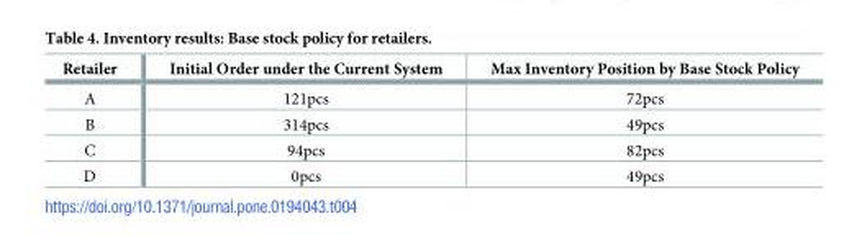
<table><thead><tr><td>Retailer</td><td>Initial Order under the Current System</td><td>Max Inventory Position by Base Stock Policy</td></tr></thead><tbody><tr><td>A</td><td>121pcs</td><td>72pcs</td></tr><tr><td>B</td><td>314pcs</td><td>49pcs</td></tr><tr><td>C</td><td>94pcs</td><td>82pcs</td></tr><tr><td>D</td><td>0pcs</td><td>49pcs</td></tr></tbody></table>